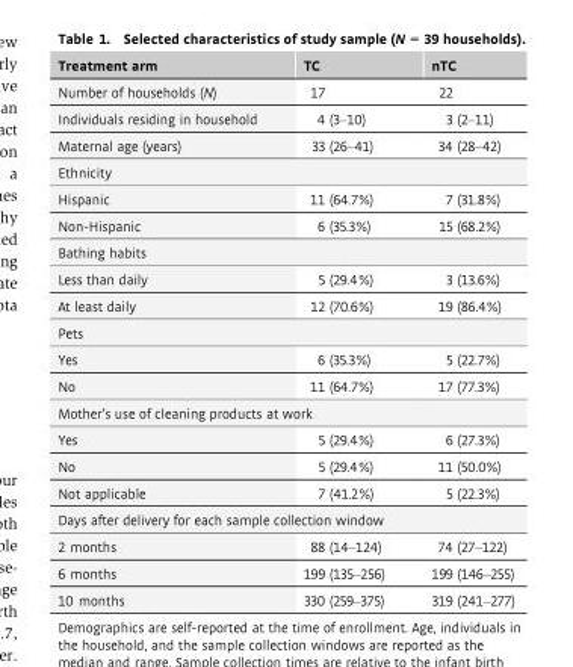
<table><thead><tr><td>Treatment arm</td><td>TC</td><td>nTC</td></tr></thead><tbody><tr><td>Number of households (N)</td><td>17</td><td>22</td></tr><tr><td>Individuals residing in household</td><td>4 (3–10)</td><td>3 (2–11)</td></tr><tr><td>Maternal age (years)</td><td>33 (26–41)</td><td>34 (28–42)</td></tr><tr><td colspan="3">Ethnicity</td></tr><tr><td>Hispanic</td><td>11 (64.7%)</td><td>7 (31.8%)</td></tr><tr><td>Non-Hispanic</td><td>6 (35.3%)</td><td>15 (68.2%)</td></tr><tr><td colspan="3">Bathing habits</td></tr><tr><td>Less than daily</td><td>5 (29.4%)</td><td>3 (13.6%)</td></tr><tr><td>At least daily</td><td>12 (70.6%)</td><td>19 (86.4%)</td></tr><tr><td colspan="3">Pets</td></tr><tr><td>Yes</td><td>6 (35.3%)</td><td>5 (22.7%)</td></tr><tr><td>No</td><td>11 (64.7%)</td><td>17 (77.3%)</td></tr><tr><td colspan="3">Mother’s use of cleaning products at work</td></tr><tr><td>Yes</td><td>5 (29.4%)</td><td>6 (27.3%)</td></tr><tr><td>No</td><td>5 (29.4%)</td><td>11 (50.0%)</td></tr><tr><td>Not applicable</td><td>7 (41.2%)</td><td>5 (22.3%)</td></tr><tr><td colspan="3">Days after delivery for each sample collection window</td></tr><tr><td>2 months</td><td>88 (14–124)</td><td>74 (27–122)</td></tr><tr><td>6 months</td><td>199 (135–256)</td><td>199 (146–255)</td></tr><tr><td>10 months</td><td>330 (259–375)</td><td>319 (241–277)</td></tr></tbody></table>